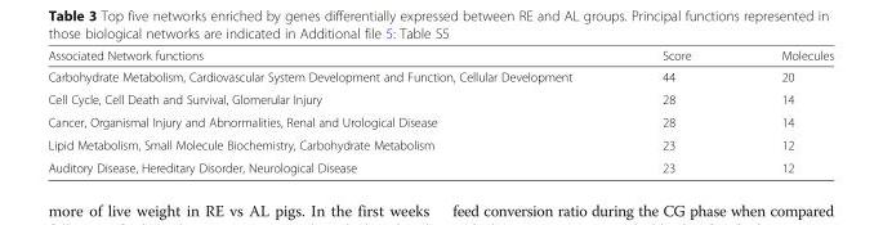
<table><thead><tr><td>Associated Network functions</td><td>Score</td><td>Molecules</td></tr></thead><tbody><tr><td>Carbohydrate Metabolism, Cardiovascular System Development and Function, Cellular Development</td><td>44</td><td>20</td></tr><tr><td>Cell Cycle, Cell Death and Survival, Glomerular Injury</td><td>28</td><td>14</td></tr><tr><td>Cancer, Organismal Injury and Abnormalities, Renal and Urological Disease</td><td>28</td><td>14</td></tr><tr><td>Lipid Metabolism, Small Molecule Biochemistry, Carbohydrate Metabolism</td><td>23</td><td>12</td></tr><tr><td>Auditory Disease, Hereditary Disorder, Neurological Disease</td><td>23</td><td>12</td></tr></tbody></table>